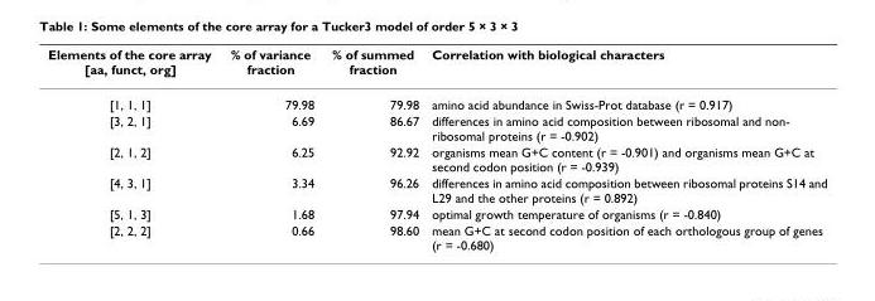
<table><thead><tr><td>Elements of the core array [aa, funct, org]</td><td>% of variance fraction</td><td>% of summed fraction</td><td>Correlation with biological characters</td></tr></thead><tbody><tr><td>[1, 1, 1]</td><td>79.98</td><td>79.98</td><td>amino acid abundance in Swiss-Prot database (r = 0.917)</td></tr><tr><td>[3, 2, 1]</td><td>6.69</td><td>86.67</td><td>differences in amino acid composition between ribosomal and non- ribosomal proteins (r = -0.902)</td></tr><tr><td>[2, 1, 2]</td><td>6.25</td><td>92.92</td><td>organisms mean G+C content (r = -0.901) and organisms mean G+C at second codon position (r = -0.939)</td></tr><tr><td>[4, 3, 1]</td><td>3.34</td><td>96.26</td><td>differences in amino acid composition between ribosomal proteins S14 and L29 and the other proteins (r = 0.892)</td></tr><tr><td>[5, 1, 3]</td><td>1.68</td><td>97.94</td><td>optimal growth temperature of organisms (r = -0.840)</td></tr><tr><td>[2, 2, 2]</td><td>0.66</td><td>98.60</td><td>mean G+C at second codon position of each orthologous group of genes (r = -0.680)</td></tr></tbody></table>